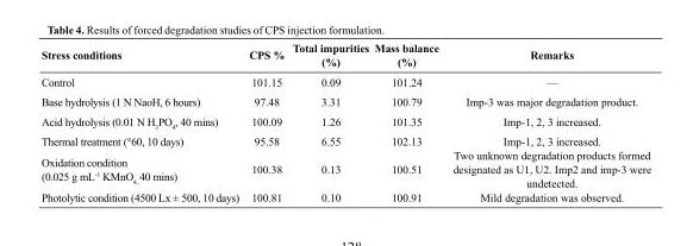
<table><thead><tr><td>Stress conditions</td><td>CPS %</td><td>Total impurities (%)</td><td>Mass balance (%)</td><td>Remarks</td></tr></thead><tbody><tr><td>Control</td><td>101.15</td><td>0.09</td><td>101.24</td><td>—</td></tr><tr><td>Base hydrolysis (1 N NaoH, 6 hours)</td><td>97.48</td><td>3.31</td><td>100.79</td><td>Imp-3 was major degradation product.</td></tr><tr><td>Acid hydrolysis (0.01 N H<sub>3</sub>PO<sub>4</sub>, 40 mins)</td><td>100.09</td><td>1.26</td><td>101.35</td><td>Imp-1, 2, 3 increased.</td></tr><tr><td>Thermal treatment (°60, 10 days)</td><td>95.58</td><td>6.55</td><td>102.13</td><td>Imp-1, 2, 3 increased.</td></tr><tr><td>Oxidation condition (0.025 g mL<sup>-1</sup> KMnO<sub>4,</sub> 40 mins)</td><td>100.38</td><td>0.13</td><td>100.51</td><td>Two unknown degradation products formed designated as U1, U2. Imp2 and imp-3 were undetected.</td></tr><tr><td>Photolytic condition (4500 Lx ± 500, 10 days)</td><td>100.81</td><td>0.10</td><td>100.91</td><td>Mild degradation was observed.</td></tr></tbody></table>